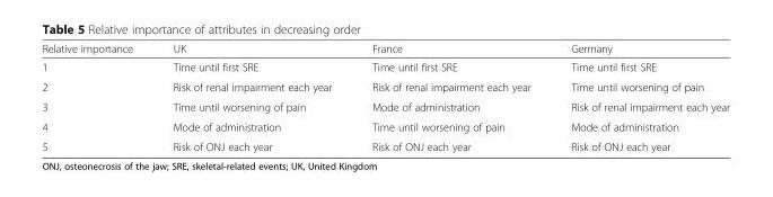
<table><thead><tr><td>Relative importance</td><td>UK</td><td>France</td><td>Germany</td></tr></thead><tbody><tr><td>1</td><td>Time until first SRE</td><td>Time until first SRE</td><td>Time until first SRE</td></tr><tr><td>2</td><td>Risk of renal impairment each year</td><td>Risk of renal impairment each year</td><td>Time until worsening of pain</td></tr><tr><td>3</td><td>Time until worsening of pain</td><td>Mode of administration</td><td>Risk of renal impairment each year</td></tr><tr><td>4</td><td>Mode of administration</td><td>Time until worsening of pain</td><td>Mode of administration</td></tr><tr><td>5</td><td>Risk of ONJ each year</td><td>Risk of ONJ each year</td><td>Risk of ONJ each year</td></tr></tbody></table>